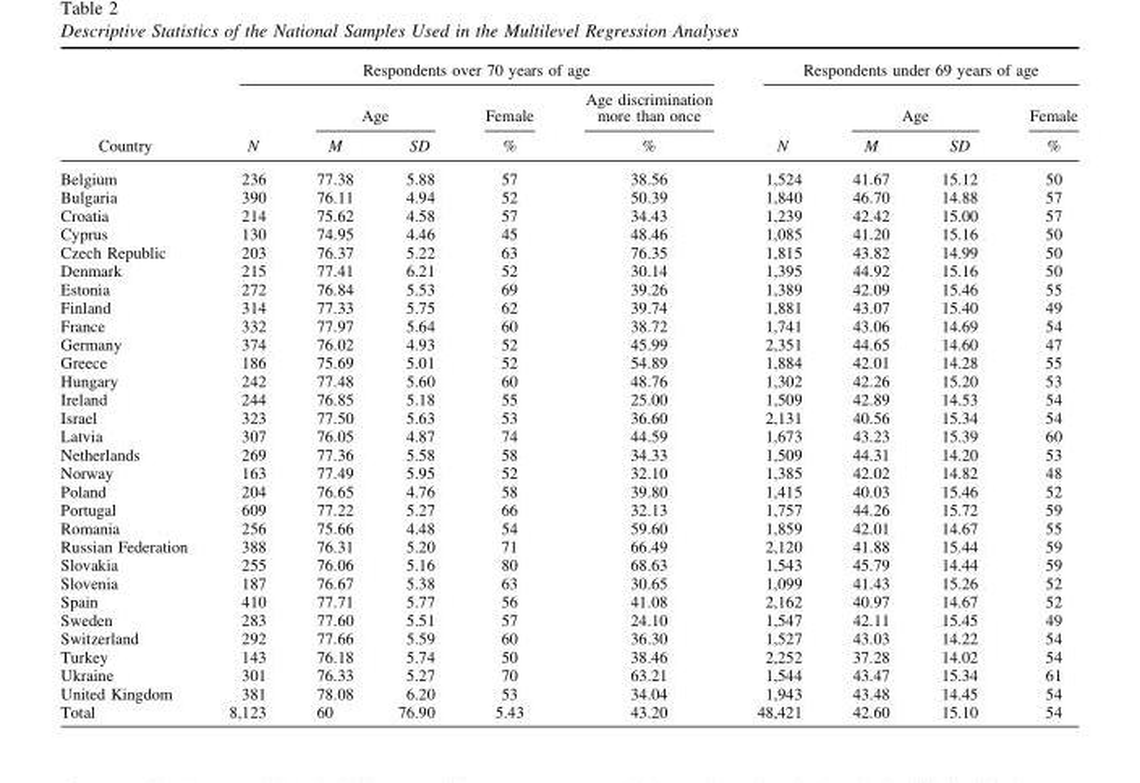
<table><thead><tr><td rowspan="3">Country</td><td colspan="5">Respondents over 70 years of age</td><td colspan="4">Respondents under 69 years of age</td></tr><tr><td rowspan="2">N</td><td colspan="2">Age</td><td rowspan="2">Female %</td><td rowspan="2">Age discrimination more than once %</td><td rowspan="2">N</td><td colspan="2">Age</td><td rowspan="2">Female %</td></tr><tr><td>M</td><td>SD</td><td>M</td><td>SD</td></tr></thead><tbody><tr><td>Belgium</td><td>236</td><td>77.38</td><td>5.88</td><td>57</td><td>38.56</td><td>1,524</td><td>41.67</td><td>15.12</td><td>50</td></tr><tr><td>Bulgaria</td><td>390</td><td>76.11</td><td>4.94</td><td>52</td><td>50.39</td><td>1,840</td><td>46.70</td><td>14.88</td><td>57</td></tr><tr><td>Croatia</td><td>214</td><td>75.62</td><td>4.58</td><td>57</td><td>34.43</td><td>1,239</td><td>42.42</td><td>15.00</td><td>57</td></tr><tr><td>Cyprus</td><td>130</td><td>74.95</td><td>4.46</td><td>45</td><td>48.46</td><td>1,085</td><td>41.20</td><td>15.16</td><td>50</td></tr><tr><td>Czech Republic</td><td>203</td><td>76.37</td><td>5.22</td><td>63</td><td>76.35</td><td>1,815</td><td>43.82</td><td>14.99</td><td>50</td></tr><tr><td>Denmark</td><td>215</td><td>77.41</td><td>6.21</td><td>52</td><td>30.14</td><td>1,395</td><td>44.92</td><td>15.16</td><td>50</td></tr><tr><td>Estonia</td><td>272</td><td>76.84</td><td>5.53</td><td>69</td><td>39.26</td><td>1,389</td><td>42.09</td><td>15.46</td><td>55</td></tr><tr><td>Finland</td><td>314</td><td>77.33</td><td>5.75</td><td>62</td><td>39.74</td><td>1,881</td><td>43.07</td><td>15.40</td><td>49</td></tr><tr><td>France</td><td>332</td><td>77.97</td><td>5.64</td><td>60</td><td>38.72</td><td>1,741</td><td>43.06</td><td>14.69</td><td>54</td></tr><tr><td>Germany</td><td>374</td><td>76.02</td><td>4.93</td><td>52</td><td>45.99</td><td>2,351</td><td>44.65</td><td>14.60</td><td>47</td></tr><tr><td>Greece</td><td>186</td><td>75.69</td><td>5.01</td><td>52</td><td>54.89</td><td>1,884</td><td>42.01</td><td>14.28</td><td>55</td></tr><tr><td>Hungary</td><td>242</td><td>77.48</td><td>5.60</td><td>60</td><td>48.76</td><td>1,302</td><td>42.26</td><td>15.20</td><td>53</td></tr><tr><td>Ireland</td><td>244</td><td>76.85</td><td>5.18</td><td>55</td><td>25.00</td><td>1,509</td><td>42.89</td><td>14.53</td><td>54</td></tr><tr><td>Israel</td><td>323</td><td>77.50</td><td>5.63</td><td>53</td><td>36.60</td><td>2,131</td><td>40.56</td><td>15.34</td><td>54</td></tr><tr><td>Latvia</td><td>307</td><td>76.05</td><td>4.87</td><td>74</td><td>44.59</td><td>1,673</td><td>43.23</td><td>15.39</td><td>60</td></tr><tr><td>Netherlands</td><td>269</td><td>77.36</td><td>5.58</td><td>58</td><td>34.33</td><td>1,509</td><td>44.31</td><td>14.20</td><td>53</td></tr><tr><td>Norway</td><td>163</td><td>77.49</td><td>5.95</td><td>52</td><td>32.10</td><td>1,385</td><td>42.02</td><td>14.82</td><td>48</td></tr><tr><td>Poland</td><td>204</td><td>76.65</td><td>4.76</td><td>58</td><td>39.80</td><td>1,415</td><td>40.03</td><td>15.46</td><td>52</td></tr><tr><td>Portugal</td><td>609</td><td>77.22</td><td>5.27</td><td>66</td><td>32.13</td><td>1,757</td><td>44.26</td><td>15.72</td><td>59</td></tr><tr><td>Romania</td><td>256</td><td>75.66</td><td>4.48</td><td>54</td><td>59.60</td><td>1,859</td><td>42.01</td><td>14.67</td><td>55</td></tr><tr><td>Russian Federation</td><td>388</td><td>76.31</td><td>5.20</td><td>71</td><td>66.49</td><td>2,120</td><td>41.88</td><td>15.44</td><td>59</td></tr><tr><td>Slovakia</td><td>255</td><td>76.06</td><td>5.16</td><td>80</td><td>68.63</td><td>1,543</td><td>45.79</td><td>14.44</td><td>59</td></tr><tr><td>Slovenia</td><td>187</td><td>76.67</td><td>5.38</td><td>63</td><td>30.65</td><td>1,099</td><td>41.43</td><td>15.26</td><td>52</td></tr><tr><td>Spain</td><td>410</td><td>77.71</td><td>5.77</td><td>56</td><td>41.08</td><td>2,162</td><td>40.97</td><td>14.67</td><td>52</td></tr><tr><td>Sweden</td><td>283</td><td>77.60</td><td>5.51</td><td>57</td><td>24.10</td><td>1,547</td><td>42.11</td><td>15.45</td><td>49</td></tr><tr><td>Switzerland</td><td>292</td><td>77.66</td><td>5.59</td><td>60</td><td>36.30</td><td>1,527</td><td>43.03</td><td>14.22</td><td>54</td></tr><tr><td>Turkey</td><td>143</td><td>76.18</td><td>5.74</td><td>50</td><td>38.46</td><td>2,252</td><td>37.28</td><td>14.02</td><td>54</td></tr><tr><td>Ukraine</td><td>301</td><td>76.33</td><td>5.27</td><td>70</td><td>63.21</td><td>1,544</td><td>43.47</td><td>15.34</td><td>61</td></tr><tr><td>United Kingdom</td><td>381</td><td>78.08</td><td>6.20</td><td>53</td><td>34.04</td><td>1,943</td><td>43.48</td><td>14.45</td><td>54</td></tr><tr><td>Total</td><td>8,123</td><td>60</td><td>76.90</td><td>5.43</td><td>43.20</td><td>48,421</td><td>42.60</td><td>15.10</td><td>54</td></tr></tbody></table>